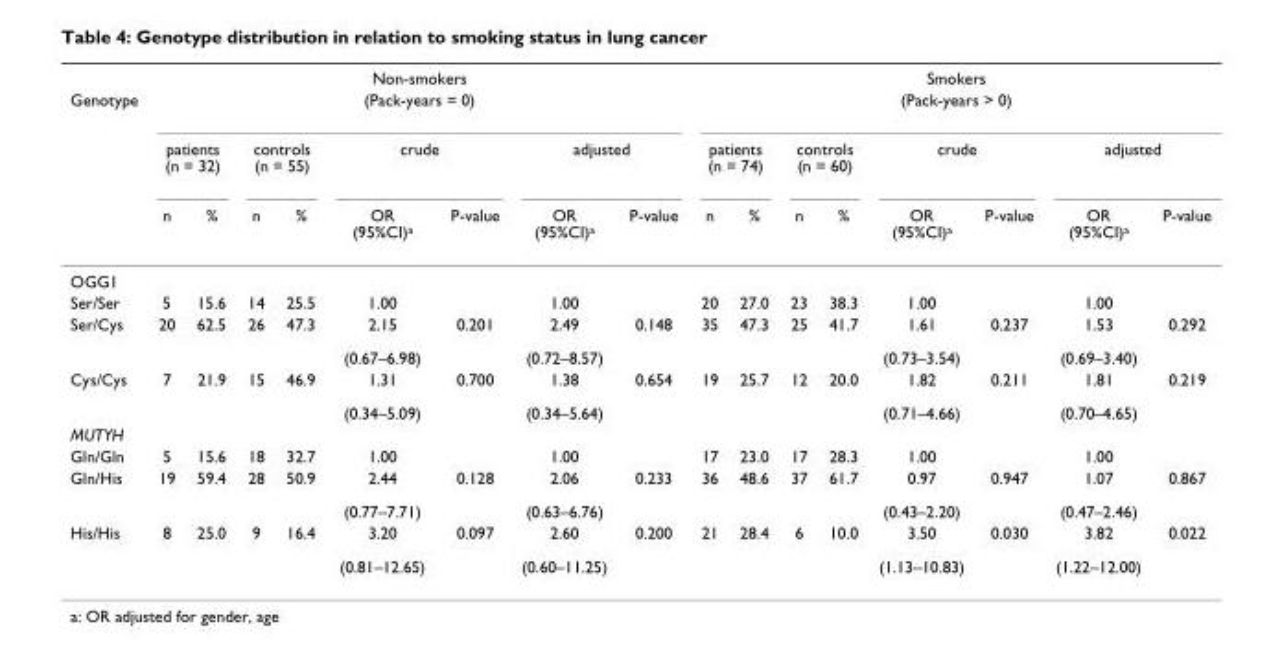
<table><thead><tr><td rowspan="4">Genotype</td><td rowspan="2" colspan="8">Non-smokers (Pack-years = 0)</td><td rowspan="2" colspan="8">Smokers (Pack-years &gt; 0)</td></tr><tr></tr><tr><td colspan="2">patients (n = 32)</td><td colspan="2">controls (n = 55)</td><td colspan="2">crude</td><td colspan="2">adjusted</td><td colspan="2">patients (n = 74)</td><td colspan="2">controls (n = 60)</td><td colspan="2">crude</td><td colspan="2">adjusted</td></tr><tr><td>n</td><td>%</td><td>n</td><td>%</td><td>OR (95%CI)<sup>a</sup></td><td>P-value</td><td>OR (95%CI)<sup>a</sup></td><td>P-value</td><td>n</td><td>%</td><td>n</td><td>%</td><td>OR (95%CI)<sup>a</sup></td><td>P-value</td><td>OR (95%CI)<sup>a</sup></td><td>P-value</td></tr></thead><tbody><tr><td colspan="17">OGG1</td></tr><tr><td>Ser/Ser</td><td>5</td><td>15.6</td><td>14</td><td>25.5</td><td>1.00</td><td></td><td>1.00</td><td></td><td>20</td><td>27.0</td><td>23</td><td>38.3</td><td>1.00</td><td></td><td>1.00</td><td></td></tr><tr><td>Ser/Cys</td><td>20</td><td>62.5</td><td>26</td><td>47.3</td><td>2.15 (0.67–6.98)</td><td>0.201</td><td>2.49 (0.72–8.57)</td><td>0.148</td><td>35</td><td>47.3</td><td>25</td><td>41.7</td><td>1.61 (0.73–3.54)</td><td>0.237</td><td>1.53 (0.69–3.40)</td><td>0.292</td></tr><tr><td>Cys/Cys</td><td>7</td><td>21.9</td><td>15</td><td>46.9</td><td>1.31 (0.34–5.09)</td><td>0.700</td><td>1.38 (0.34–5.64)</td><td>0.654</td><td>19</td><td>25.7</td><td>12</td><td>20.0</td><td>1.82 (0.71–4.66)</td><td>0.211</td><td>1.81 (0.70–4.65)</td><td>0.219</td></tr><tr><td colspan="17">MUTYH</td></tr><tr><td>Gln/Gln</td><td>5</td><td>15.6</td><td>18</td><td>32.7</td><td>1.00</td><td></td><td>1.00</td><td></td><td>17</td><td>23.0</td><td>17</td><td>28.3</td><td>1.00</td><td></td><td>1.00</td><td></td></tr><tr><td>Gln/His</td><td>19</td><td>59.4</td><td>28</td><td>50.9</td><td>2.44 (0.77–7.71)</td><td>0.128</td><td>2.06 (0.63–6.76)</td><td>0.233</td><td>36</td><td>48.6</td><td>37</td><td>61.7</td><td>0.97 (0.43–2.20)</td><td>0.947</td><td>1.07 (0.47–2.46)</td><td>0.867</td></tr><tr><td>His/His</td><td>8</td><td>25.0</td><td>9</td><td>16.4</td><td>3.20 (0.81–12.65)</td><td>0.097</td><td>2.60 (0.60–11.25)</td><td>0.200</td><td>21</td><td>28.4</td><td>6</td><td>10.0</td><td>3.50 (1.13–10.83)</td><td>0.030</td><td>3.82 (1.22–12.00)</td><td>0.022</td></tr></tbody></table>